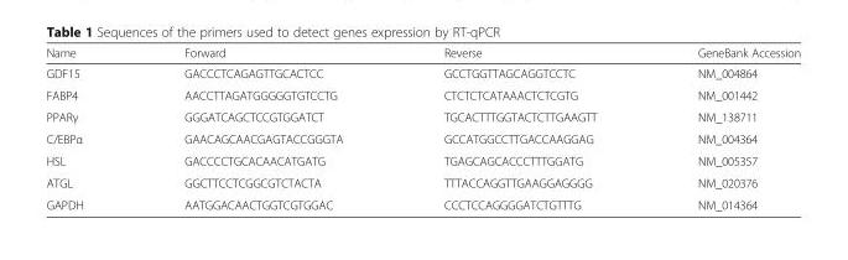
<table><thead><tr><td>Name</td><td>Forward</td><td>Reverse</td><td>GeneBank Accession</td></tr></thead><tbody><tr><td>GDF15</td><td>GACCCTCAGAGTTGCACTCC</td><td>GCCTGGTTAGCAGGTCCTC</td><td>NM_004864</td></tr><tr><td>FABP4</td><td>AACCTTAGATGGGGGTGTCCTG</td><td>CTCTCTCATAAACTCTCGTG</td><td>NM_001442</td></tr><tr><td>PPARγ</td><td>GGGATCAGCTCCGTGGATCT</td><td>TGCACTTTGGTACTCTTGAAGTT</td><td>NM_138711</td></tr><tr><td>C/EBPα</td><td>GAACAGCAACGAGTACCGGGTA</td><td>GCCATGGCCTTGACCAAGGAG</td><td>NM_004364</td></tr><tr><td>HSL</td><td>GACCCCTGCACAACATGATG</td><td>TGAGCAGCACCCTTTGGATG</td><td>NM_005357</td></tr><tr><td>ATGL</td><td>GGCTTCCTCGGCGTCTACTA</td><td>TTTACCAGGTTGAAGGAGGGG</td><td>NM_020376</td></tr><tr><td>GAPDH</td><td>AATGGACAACTGGTCGTGGAC</td><td>CCCTCCAGGGGATCTGTTTG</td><td>NM_014364</td></tr></tbody></table>